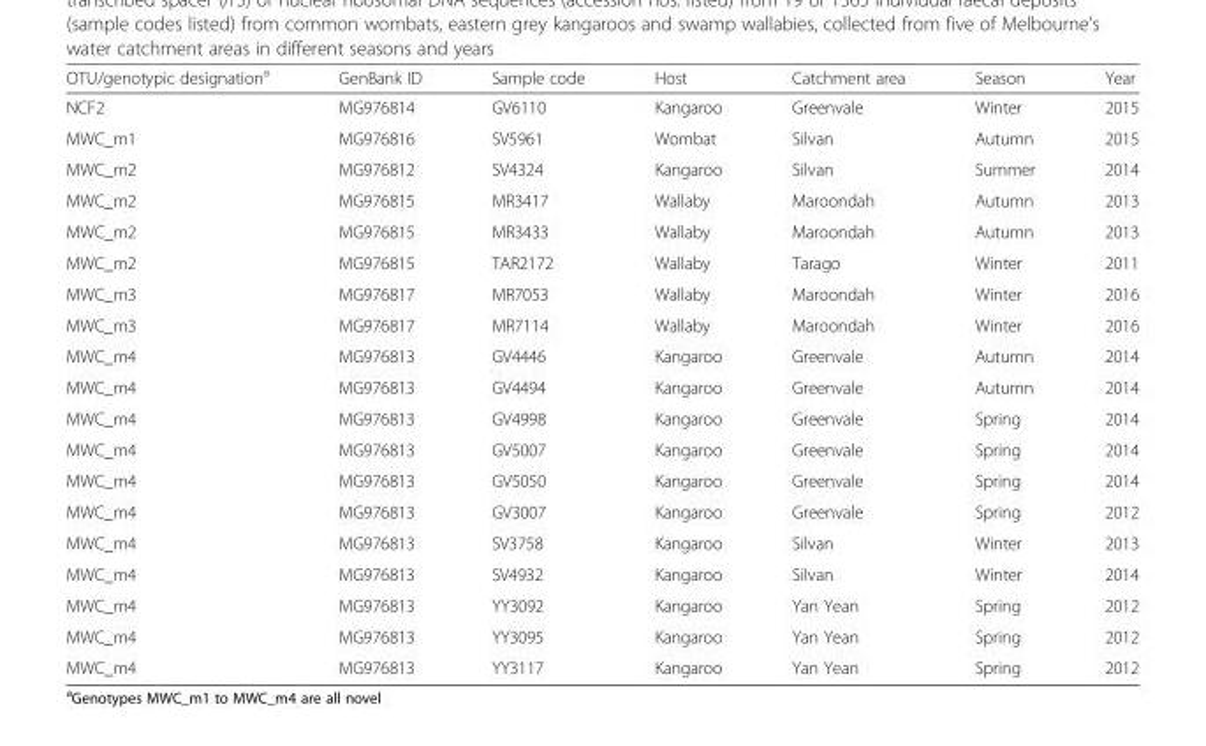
<table><thead><tr><td>OTU/genotypic designation<sup>a</sup></td><td>GenBank ID</td><td>Sample code</td><td>Host</td><td>Catchment area</td><td>Season</td><td>Year</td></tr></thead><tbody><tr><td>NCF2</td><td>MG976814</td><td>GV6110</td><td>Kangaroo</td><td>Greenvale</td><td>Winter</td><td>2015</td></tr><tr><td>MWC_m1</td><td>MG976816</td><td>SV5961</td><td>Wombat</td><td>Silvan</td><td>Autumn</td><td>2015</td></tr><tr><td>MWC_m2</td><td>MG976812</td><td>SV4324</td><td>Kangaroo</td><td>Silvan</td><td>Summer</td><td>2014</td></tr><tr><td>MWC_m2</td><td>MG976815</td><td>MR3417</td><td>Wallaby</td><td>Maroondah</td><td>Autumn</td><td>2013</td></tr><tr><td>MWC_m2</td><td>MG976815</td><td>MR3433</td><td>Wallaby</td><td>Maroondah</td><td>Autumn</td><td>2013</td></tr><tr><td>MWC_m2</td><td>MG976815</td><td>TAR2172</td><td>Wallaby</td><td>Tarago</td><td>Winter</td><td>2011</td></tr><tr><td>MWC_m3</td><td>MG976817</td><td>MR7053</td><td>Wallaby</td><td>Maroondah</td><td>Winter</td><td>2016</td></tr><tr><td>MWC_m3</td><td>MG976817</td><td>MR7114</td><td>Wallaby</td><td>Maroondah</td><td>Winter</td><td>2016</td></tr><tr><td>MWC_m4</td><td>MG976813</td><td>GV4446</td><td>Kangaroo</td><td>Greenvale</td><td>Autumn</td><td>2014</td></tr><tr><td>MWC_m4</td><td>MG976813</td><td>GV4494</td><td>Kangaroo</td><td>Greenvale</td><td>Autumn</td><td>2014</td></tr><tr><td>MWC_m4</td><td>MG976813</td><td>GV4998</td><td>Kangaroo</td><td>Greenvale</td><td>Spring</td><td>2014</td></tr><tr><td>MWC_m4</td><td>MG976813</td><td>GV5007</td><td>Kangaroo</td><td>Greenvale</td><td>Spring</td><td>2014</td></tr><tr><td>MWC_m4</td><td>MG976813</td><td>GV5050</td><td>Kangaroo</td><td>Greenvale</td><td>Spring</td><td>2014</td></tr><tr><td>MWC_m4</td><td>MG976813</td><td>GV3007</td><td>Kangaroo</td><td>Greenvale</td><td>Spring</td><td>2012</td></tr><tr><td>MWC_m4</td><td>MG976813</td><td>SV3758</td><td>Kangaroo</td><td>Silvan</td><td>Winter</td><td>2013</td></tr><tr><td>MWC_m4</td><td>MG976813</td><td>SV4932</td><td>Kangaroo</td><td>Silvan</td><td>Winter</td><td>2014</td></tr><tr><td>MWC_m4</td><td>MG976813</td><td>YY3092</td><td>Kangaroo</td><td>Yan Yean</td><td>Spring</td><td>2012</td></tr><tr><td>MWC_m4</td><td>MG976813</td><td>YY3095</td><td>Kangaroo</td><td>Yan Yean</td><td>Spring</td><td>2012</td></tr><tr><td>MWC_m4</td><td>MG976813</td><td>YY3117</td><td>Kangaroo</td><td>Yan Yean</td><td>Spring</td><td>2012</td></tr></tbody></table>